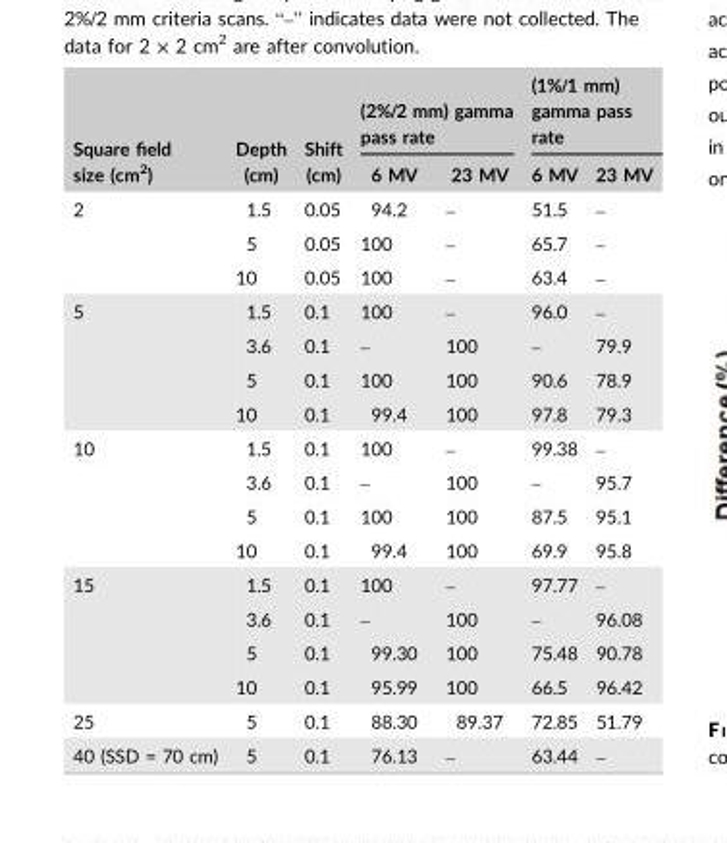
<table><thead><tr><td rowspan="2">Square field size (cm<sup>2</sup>)</td><td rowspan="2">Depth (cm)</td><td rowspan="2">Shift (cm)</td><td colspan="2">(2%/2 mm) gamma pass rate</td><td colspan="2">(1%/1 mm) gamma pass rate</td></tr><tr><td>6 MV</td><td>23 MV</td><td>6 MV</td><td>23 MV</td></tr></thead><tbody><tr><td rowspan="3">2</td><td>1.5</td><td>0.05</td><td>94.2</td><td>–</td><td>51.5</td><td>–</td></tr><tr><td>5</td><td>0.05</td><td>100</td><td>–</td><td>65.7</td><td>–</td></tr><tr><td>10</td><td>0.05</td><td>100</td><td>–</td><td>63.4</td><td>–</td></tr><tr><td rowspan="4">5</td><td>1.5</td><td>0.1</td><td>100</td><td>–</td><td>96.0</td><td>–</td></tr><tr><td>3.6</td><td>0.1</td><td>–</td><td>100</td><td>–</td><td>79.9</td></tr><tr><td>5</td><td>0.1</td><td>100</td><td>100</td><td>90.6</td><td>78.9</td></tr><tr><td>10</td><td>0.1</td><td>99.4</td><td>100</td><td>97.8</td><td>79.3</td></tr><tr><td rowspan="4">10</td><td>1.5</td><td>0.1</td><td>100</td><td>–</td><td>99.38</td><td>–</td></tr><tr><td>3.6</td><td>0.1</td><td>–</td><td>100</td><td>–</td><td>95.7</td></tr><tr><td>5</td><td>0.1</td><td>100</td><td>100</td><td>87.5</td><td>95.1</td></tr><tr><td>10</td><td>0.1</td><td>99.4</td><td>100</td><td>69.9</td><td>95.8</td></tr><tr><td rowspan="4">15</td><td>1.5</td><td>0.1</td><td>100</td><td>–</td><td>97.77</td><td>–</td></tr><tr><td>3.6</td><td>0.1</td><td>–</td><td>100</td><td>–</td><td>96.08</td></tr><tr><td>5</td><td>0.1</td><td>99.30</td><td>100</td><td>75.48</td><td>90.78</td></tr><tr><td>10</td><td>0.1</td><td>95.99</td><td>100</td><td>66.5</td><td>96.42</td></tr><tr><td>25</td><td>5</td><td>0.1</td><td>88.30</td><td>89.37</td><td>72.85</td><td>51.79</td></tr><tr><td>40 (SSD = 70 cm)</td><td>5</td><td>0.1</td><td>76.13</td><td>–</td><td>63.44</td><td>–</td></tr></tbody></table>